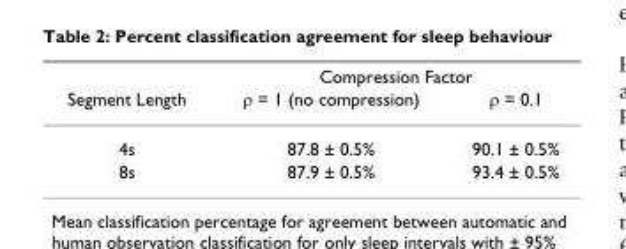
<table><thead><tr><td rowspan="2">Segment Length</td><td colspan="2">Compression Factor</td></tr><tr><td>ρ = 1 (no compression)</td><td>ρ = 0.1</td></tr></thead><tbody><tr><td>4s</td><td>87.8 ± 0.5%</td><td>90.1 ± 0.5%</td></tr><tr><td>8s</td><td>87.9 ± 0.5%</td><td>93.4 ± 0.5%</td></tr></tbody></table>